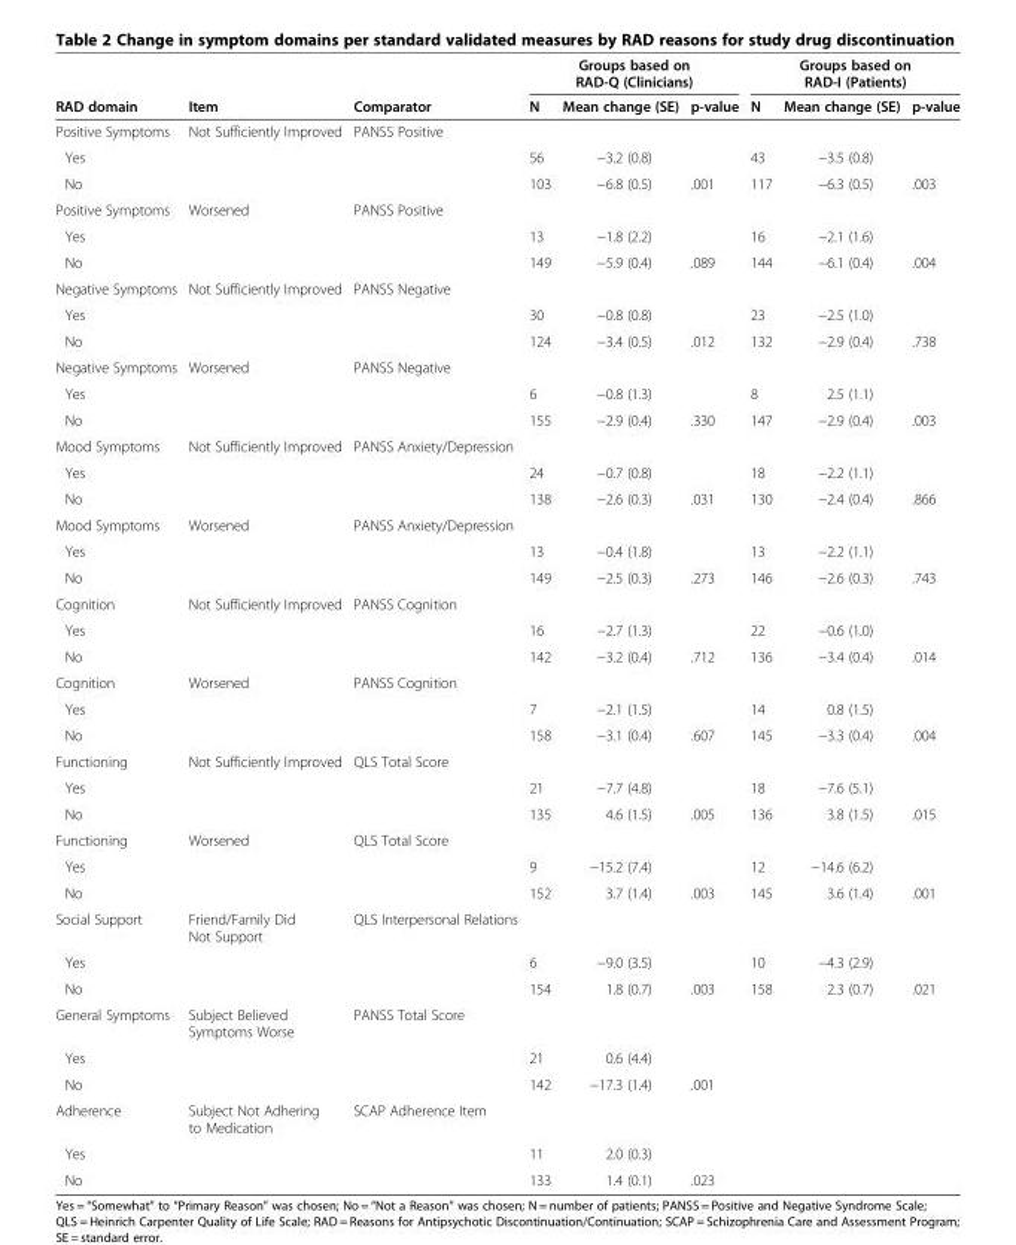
<table><thead><tr><td rowspan="2">RAD domain</td><td rowspan="2">Item</td><td rowspan="2">Comparator</td><td colspan="3">Groups based on RAD-Q (Clinicians)</td><td colspan="3">Groups based on RAD-I (Patients)</td></tr><tr><td>N</td><td>Mean change (SE)</td><td>p-value</td><td>N</td><td>Mean change (SE)</td><td>p-value</td></tr></thead><tbody><tr><td>Positive Symptoms</td><td>Not Sufficiently Improved</td><td>PANSS Positive</td><td></td><td></td><td></td><td></td><td></td><td></td></tr><tr><td>Yes</td><td></td><td></td><td>56</td><td>−3.2 (0.8)</td><td></td><td>43</td><td>−3.5 (0.8)</td><td></td></tr><tr><td>No</td><td></td><td></td><td>103</td><td>−6.8 (0.5)</td><td>.001</td><td>117</td><td>−6.3 (0.5)</td><td>.003</td></tr><tr><td>Positive Symptoms</td><td>Worsened</td><td>PANSS Positive</td><td></td><td></td><td></td><td></td><td></td><td></td></tr><tr><td>Yes</td><td></td><td></td><td>13</td><td>−1.8 (2.2)</td><td></td><td>16</td><td>−2.1 (1.6)</td><td></td></tr><tr><td>No</td><td></td><td></td><td>149</td><td>−5.9 (0.4)</td><td>.089</td><td>144</td><td>−6.1 (0.4)</td><td>.004</td></tr><tr><td>Negative Symptoms</td><td>Not Sufficiently Improved</td><td>PANSS Negative</td><td></td><td></td><td></td><td></td><td></td><td></td></tr><tr><td>Yes</td><td></td><td></td><td>30</td><td>−0.8 (0.8)</td><td></td><td>23</td><td>−2.5 (1.0)</td><td></td></tr><tr><td>No</td><td></td><td></td><td>124</td><td>−3.4 (0.5)</td><td>.012</td><td>132</td><td>−2.9 (0.4)</td><td>.738</td></tr><tr><td>Negative Symptoms</td><td>Worsened</td><td>PANSS Negative</td><td></td><td></td><td></td><td></td><td></td><td></td></tr><tr><td>Yes</td><td></td><td></td><td>6</td><td>−0.8 (1.3)</td><td></td><td>8</td><td>2.5 (1.1)</td><td></td></tr><tr><td>No</td><td></td><td></td><td>155</td><td>−2.9 (0.4)</td><td>.330</td><td>147</td><td>−2.9 (0.4)</td><td>.003</td></tr><tr><td>Mood Symptoms</td><td>Not Sufficiently Improved</td><td>PANSS Anxiety/Depression</td><td></td><td></td><td></td><td></td><td></td><td></td></tr><tr><td>Yes</td><td></td><td></td><td>24</td><td>−0.7 (0.8)</td><td></td><td>18</td><td>−2.2 (1.1)</td><td></td></tr><tr><td>No</td><td></td><td></td><td>138</td><td>−2.6 (0.3)</td><td>.031</td><td>130</td><td>−2.4 (0.4)</td><td>.866</td></tr><tr><td>Mood Symptoms</td><td>Worsened</td><td>PANSS Anxiety/Depression</td><td></td><td></td><td></td><td></td><td></td><td></td></tr><tr><td>Yes</td><td></td><td></td><td>13</td><td>−0.4 (1.8)</td><td></td><td>13</td><td>−2.2 (1.1)</td><td></td></tr><tr><td>No</td><td></td><td></td><td>149</td><td>−2.5 (0.3)</td><td>.273</td><td>146</td><td>−2.6 (0.3)</td><td>.743</td></tr><tr><td>Cognition</td><td>Not Sufficiently Improved</td><td>PANSS Cognition</td><td></td><td></td><td></td><td></td><td></td><td></td></tr><tr><td>Yes</td><td></td><td></td><td>16</td><td>−2.7 (1.3)</td><td></td><td>22</td><td>−0.6 (1.0)</td><td></td></tr><tr><td>No</td><td></td><td></td><td>142</td><td>−3.2 (0.4)</td><td>.712</td><td>136</td><td>−3.4 (0.4)</td><td>.014</td></tr><tr><td>Cognition</td><td>Worsened</td><td>PANSS Cognition</td><td></td><td></td><td></td><td></td><td></td><td></td></tr><tr><td>Yes</td><td></td><td></td><td>7</td><td>−2.1 (1.5)</td><td></td><td>14</td><td>0.8 (1.5)</td><td></td></tr><tr><td>No</td><td></td><td></td><td>158</td><td>−3.1 (0.4)</td><td>.607</td><td>145</td><td>−3.3 (0.4)</td><td>.004</td></tr><tr><td>Functioning</td><td>Not Sufficiently Improved</td><td>QLS Total Score</td><td></td><td></td><td></td><td></td><td></td><td></td></tr><tr><td>Yes</td><td></td><td></td><td>21</td><td>−7.7 (4.8)</td><td></td><td>18</td><td>−7.6 (5.1)</td><td></td></tr><tr><td>No</td><td></td><td></td><td>135</td><td>4.6 (1.5)</td><td>.005</td><td>136</td><td>3.8 (1.5)</td><td>.015</td></tr><tr><td>Functioning</td><td>Worsened</td><td>QLS Total Score</td><td></td><td></td><td></td><td></td><td></td><td></td></tr><tr><td>Yes</td><td></td><td></td><td>9</td><td>−15.2 (7.4)</td><td></td><td>12</td><td>−14.6 (6.2)</td><td></td></tr><tr><td>No</td><td></td><td></td><td>152</td><td>3.7 (1.4)</td><td>.003</td><td>145</td><td>3.6 (1.4)</td><td>.001</td></tr><tr><td>Social Support</td><td>Friend/Family Did Not Support</td><td>QLS Interpersonal Relations</td><td></td><td></td><td></td><td></td><td></td><td></td></tr><tr><td>Yes</td><td></td><td></td><td>6</td><td>−9.0 (3.5)</td><td></td><td>10</td><td>−4.3 (2.9)</td><td></td></tr><tr><td>No</td><td></td><td></td><td>154</td><td>1.8 (0.7)</td><td>.003</td><td>158</td><td>2.3 (0.7)</td><td>.021</td></tr><tr><td>General Symptoms</td><td>Subject Believed Symptoms Worse</td><td>PANSS Total Score</td><td></td><td></td><td></td><td></td><td></td><td></td></tr><tr><td>Yes</td><td></td><td></td><td>21</td><td>0.6 (4.4)</td><td></td><td></td><td></td><td></td></tr><tr><td>No</td><td></td><td></td><td>142</td><td>−17.3 (1.4)</td><td>.001</td><td></td><td></td><td></td></tr><tr><td>Adherence</td><td>Subject Not Adhering to Medication</td><td>SCAP Adherence Item</td><td></td><td></td><td></td><td></td><td></td><td></td></tr><tr><td>Yes</td><td></td><td></td><td>11</td><td>2.0 (0.3)</td><td></td><td></td><td></td><td></td></tr><tr><td>No</td><td></td><td></td><td>133</td><td>1.4 (0.1)</td><td>.023</td><td></td><td></td><td></td></tr></tbody></table>